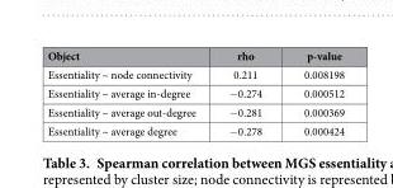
<table><thead><tr><td>Object</td><td>rho</td><td>p-value</td></tr></thead><tbody><tr><td>Essentiality ~ node connectivity</td><td>0.211</td><td>0.008198</td></tr><tr><td>Essentiality ~ average in-degree</td><td>− 0.274</td><td>0.000512</td></tr><tr><td>Essentiality ~ average out-degree</td><td>− 0.281</td><td>0.000369</td></tr><tr><td>Essentiality ~ average degree</td><td>− 0.278</td><td>0.000424</td></tr></tbody></table>